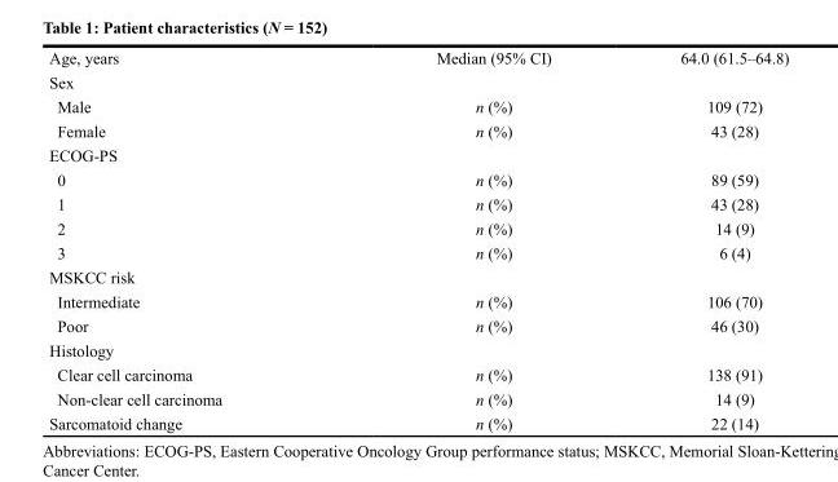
<table><thead><tr><td>Age, years</td><td>Median (95% CI)</td><td>64.0 (61.5–64.8)</td></tr></thead><tbody><tr><td colspan="3">Sex</td></tr><tr><td>Male</td><td>n (%)</td><td>109 (72)</td></tr><tr><td>Female</td><td>n (%)</td><td>43 (28)</td></tr><tr><td colspan="3">ECOG-PS</td></tr><tr><td>0</td><td>n (%)</td><td>89 (59)</td></tr><tr><td>1</td><td>n (%)</td><td>43 (28)</td></tr><tr><td>2</td><td>n (%)</td><td>14 (9)</td></tr><tr><td>3</td><td>n (%)</td><td>6 (4)</td></tr><tr><td colspan="3">MSKCC risk</td></tr><tr><td>Intermediate</td><td>n (%)</td><td>106 (70)</td></tr><tr><td>Poor</td><td>n (%)</td><td>46 (30)</td></tr><tr><td colspan="3">Histology</td></tr><tr><td>Clear cell carcinoma</td><td>n (%)</td><td>138 (91)</td></tr><tr><td>Non-clear cell carcinoma</td><td>n (%)</td><td>14 (9)</td></tr><tr><td>Sarcomatoid change</td><td>n (%)</td><td>22 (14)</td></tr></tbody></table>